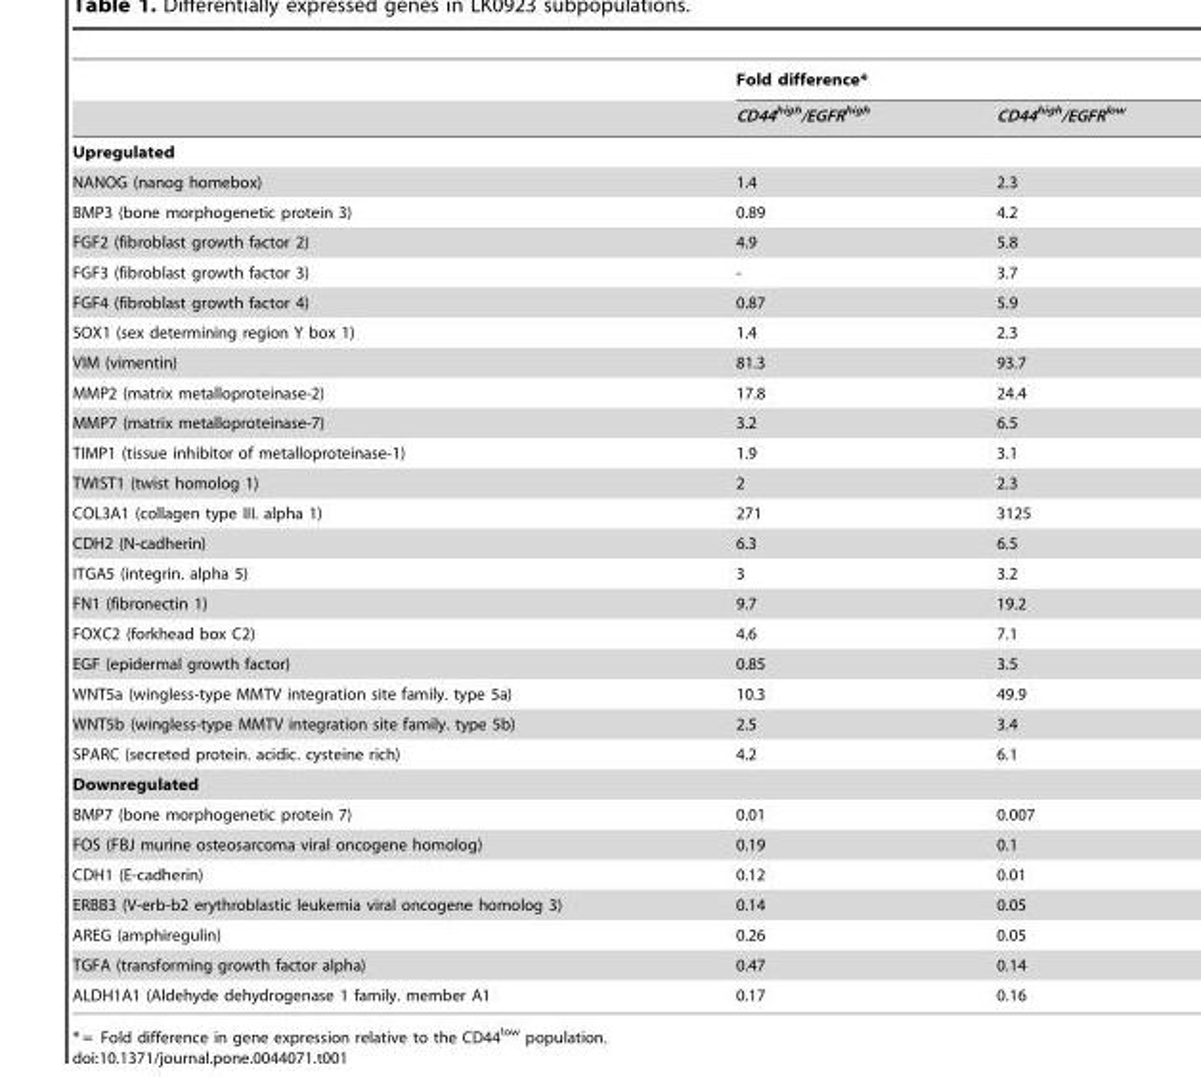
<table><thead><tr><td rowspan="2"></td><td colspan="2">Fold difference*</td></tr><tr><td>CD44<sup>high</sup>/EGFR<sup>high</sup></td><td>CD44<sup>high</sup>/EGFR<sup>low</sup></td></tr></thead><tbody><tr><td colspan="3">Upregulated</td></tr><tr><td>NANOG (nanog homebox)</td><td>1.4</td><td>2.3</td></tr><tr><td>BMP3 (bone morphogenetic protein 3)</td><td>0.89</td><td>4.2</td></tr><tr><td>FGF2 (fibroblast growth factor 2)</td><td>4.9</td><td>5.8</td></tr><tr><td>FGF3 (fibroblast growth factor 3)</td><td>-</td><td>3.7</td></tr><tr><td>FGF4 (fibroblast growth factor 4)</td><td>0.87</td><td>5.9</td></tr><tr><td>SOX1 (sex determining region Y box 1)</td><td>1.4</td><td>2.3</td></tr><tr><td>VIM (vimentin)</td><td>81.3</td><td>93.7</td></tr><tr><td>MMP2 (matrix metalloproteinase-2)</td><td>17.8</td><td>24.4</td></tr><tr><td>MMP7 (matrix metalloproteinase-7)</td><td>3.2</td><td>6.5</td></tr><tr><td>TIMP1 (tissue inhibitor of metalloproteinase-1)</td><td>1.9</td><td>3.1</td></tr><tr><td>TWIST1 (twist homolog 1)</td><td>2</td><td>2.3</td></tr><tr><td>COL3A1 (collagen type III. alpha 1)</td><td>271</td><td>3125</td></tr><tr><td>CDH2 (N-cadherin)</td><td>6.3</td><td>6.5</td></tr><tr><td>ITGA5 (integrin. alpha 5)</td><td>3</td><td>3.2</td></tr><tr><td>FN1 (fibronectin 1)</td><td>9.7</td><td>19.2</td></tr><tr><td>FOXC2 (forkhead box C2)</td><td>4.6</td><td>7.1</td></tr><tr><td>EGF (epidermal growth factor)</td><td>0.85</td><td>3.5</td></tr><tr><td>WNT5a (wingless-type MMTV integration site family. type 5a)</td><td>10.3</td><td>49.9</td></tr><tr><td>WNT5b (wingless-type MMTV integration site family. type 5b)</td><td>2.5</td><td>3.4</td></tr><tr><td>SPARC (secreted protein. acidic. cysteine rich)</td><td>4.2</td><td>6.1</td></tr><tr><td colspan="3">Downregulated</td></tr><tr><td>BMP7 (bone morphogenetic protein 7)</td><td>0.01</td><td>0.007</td></tr><tr><td>FOS (FBJ murine osteosarcoma viral oncogene homolog)</td><td>0.19</td><td>0.1</td></tr><tr><td>CDH1 (E-cadherin)</td><td>0.12</td><td>0.01</td></tr><tr><td>ERBB3 (V-erb-b2 erythroblastic leukemia viral oncogene homolog 3)</td><td>0.14</td><td>0.05</td></tr><tr><td>AREG (amphiregulin)</td><td>0.26</td><td>0.05</td></tr><tr><td>TGFA (transforming growth factor alpha)</td><td>0.47</td><td>0.14</td></tr><tr><td>ALDH1A1 (Aldehyde dehydrogenase 1 family. member A1</td><td>0.17</td><td>0.16</td></tr></tbody></table>